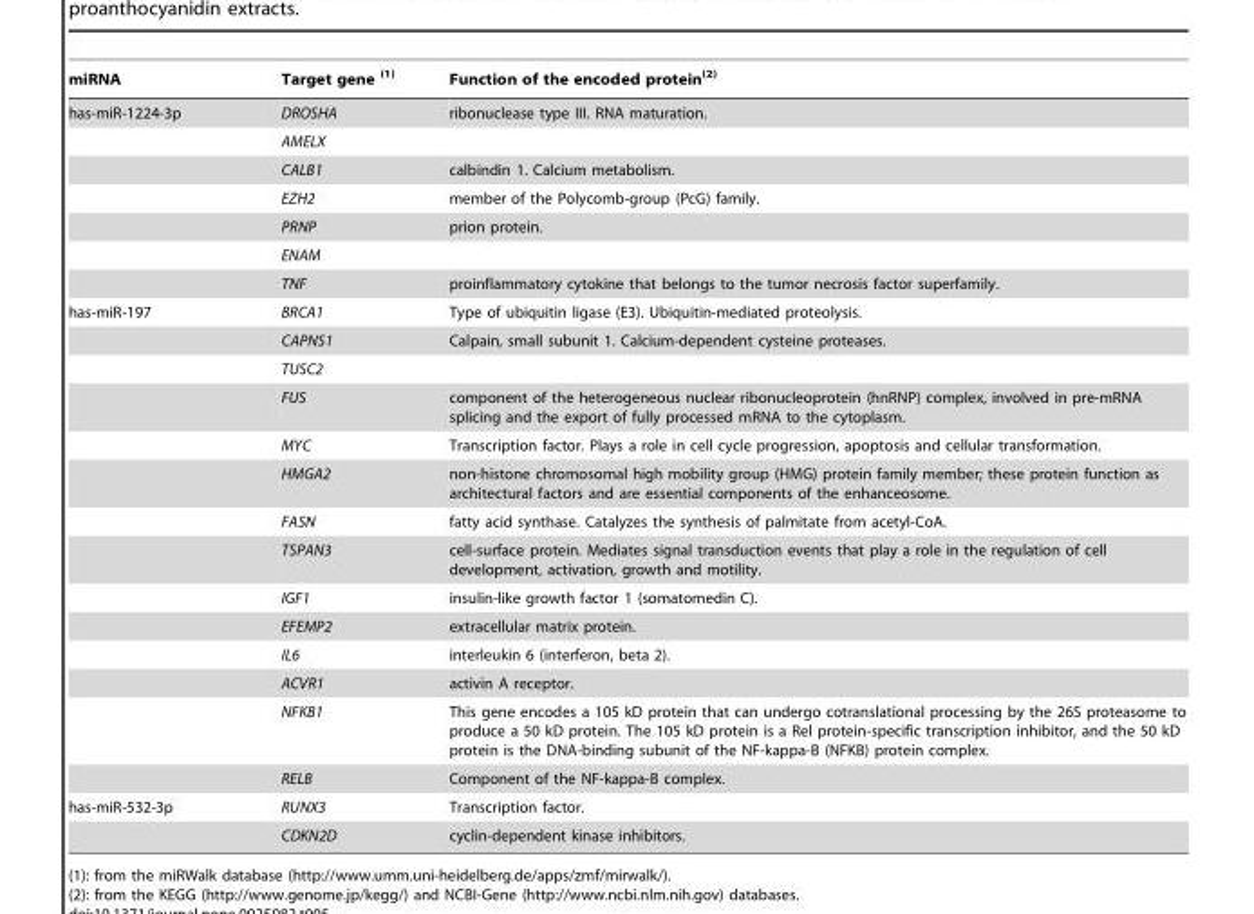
<table><thead><tr><td>miRNA</td><td>Target gene (1)</td><td>Function of the encoded protein(2)</td></tr></thead><tbody><tr><td rowspan="7">has-miR-1224-3p</td><td>DROSHA</td><td>ribonuclease type III. RNA maturation.</td></tr><tr><td>AMELX</td><td></td></tr><tr><td>CALB1</td><td>calbindin 1. Calcium metabolism.</td></tr><tr><td>EZH2</td><td>member of the Polycomb-group (PcG) family.</td></tr><tr><td>PRNP</td><td>prion protein.</td></tr><tr><td>ENAM</td><td></td></tr><tr><td>TNF</td><td>proinflammatory cytokine that belongs to the tumor necrosis factor superfamily.</td></tr><tr><td rowspan="14">has-miR-197</td><td>BRCA1</td><td>Type of ubiquitin ligase (E3). Ubiquitin-mediated proteolysis.</td></tr><tr><td>CAPNS1</td><td>Calpain, small subunit 1. Calcium-dependent cysteine proteases.</td></tr><tr><td>TUSC2</td><td></td></tr><tr><td>FUS</td><td>component of the heterogeneous nuclear ribonucleoprotein (hnRNP) complex, involved in pre-mRNA splicing and the export of fully processed mRNA to the cytoplasm.</td></tr><tr><td>MYC</td><td>Transcription factor. Plays a role in cell cycle progression, apoptosis and cellular transformation.</td></tr><tr><td>HMGA2</td><td>non-histone chromosomal high mobility group (HMG) protein family member; these protein function as architectural factors and are essential components of the enhanceosome.</td></tr><tr><td>FASN</td><td>fatty acid synthase. Catalyzes the synthesis of palmitate from acetyl-CoA.</td></tr><tr><td>TSPAN3</td><td>cell-surface protein. Mediates signal transduction events that play a role in the regulation of cell development, activation, growth and motility.</td></tr><tr><td>IGF1</td><td>insulin-like growth factor 1 (somatomedin C).</td></tr><tr><td>EFEMP2</td><td>extracellular matrix protein.</td></tr><tr><td>IL6</td><td>interleukin 6 (interferon, beta 2).</td></tr><tr><td>ACVR1</td><td>activin A receptor.</td></tr><tr><td>NFKB1</td><td>This gene encodes a 105 kD protein that can undergo cotranslational processing by the 26S proteasome to produce a 50 kD protein. The 105 kD protein is a Rel protein-specific transcription inhibitor, and the 50 kD protein is the DNA-binding subunit of the NF-kappa-B (NFKB) protein complex.</td></tr><tr><td>RELB</td><td>Component of the NF-kappa-B complex.</td></tr><tr><td rowspan="2">has-miR-532-3p</td><td>RUNX3</td><td>Transcription factor.</td></tr><tr><td>CDKN2D</td><td>cyclin-dependent kinase inhibitors.</td></tr></tbody></table>